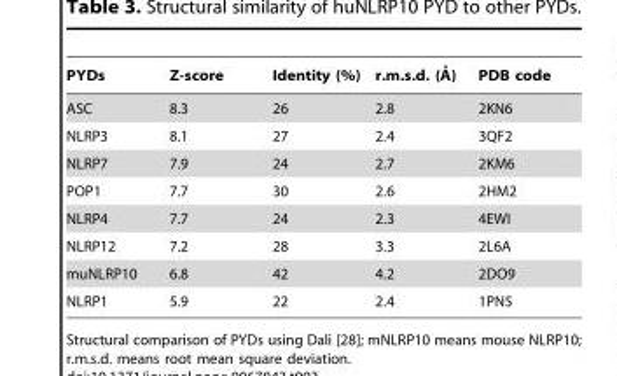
<table><thead><tr><td>PYDs</td><td>Z-score</td><td>Identity (%)</td><td>r.m.s.d. (A˚)</td><td>PDB code</td></tr></thead><tbody><tr><td>ASC</td><td>8.3</td><td>26</td><td>2.8</td><td>2KN6</td></tr><tr><td>NLRP3</td><td>8.1</td><td>27</td><td>2.4</td><td>3QF2</td></tr><tr><td>NLRP7</td><td>7.9</td><td>24</td><td>2.7</td><td>2KM6</td></tr><tr><td>POP1</td><td>7.7</td><td>30</td><td>2.6</td><td>2HM2</td></tr><tr><td>NLRP4</td><td>7.7</td><td>24</td><td>2.3</td><td>4EWI</td></tr><tr><td>NLRP12</td><td>7.2</td><td>28</td><td>3.3</td><td>2L6A</td></tr><tr><td>muNLRP10</td><td>6.8</td><td>42</td><td>4.2</td><td>2DO9</td></tr><tr><td>NLRP1</td><td>5.9</td><td>22</td><td>2.4</td><td>1PN5</td></tr></tbody></table>